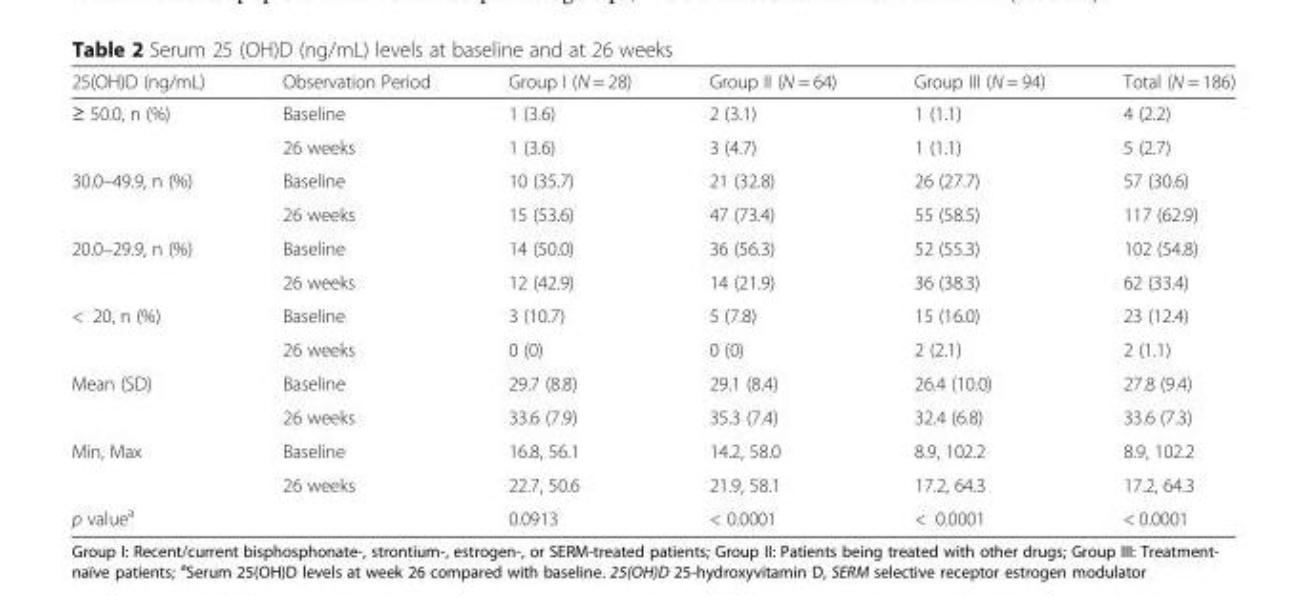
<table><thead><tr><td>25(OH)D (ng/mL)</td><td>Observation Period</td><td>Group I (N = 28)</td><td>Group II (N = 64)</td><td>Group III (N = 94)</td><td>Total (N = 186)</td></tr></thead><tbody><tr><td rowspan="2">≥ 50.0, n (%)</td><td>Baseline</td><td>1 (3.6)</td><td>2 (3.1)</td><td>1 (1.1)</td><td>4 (2.2)</td></tr><tr><td>26 weeks</td><td>1 (3.6)</td><td>3 (4.7)</td><td>1 (1.1)</td><td>5 (2.7)</td></tr><tr><td rowspan="2">30.0–49.9, n (%)</td><td>Baseline</td><td>10 (35.7)</td><td>21 (32.8)</td><td>26 (27.7)</td><td>57 (30.6)</td></tr><tr><td>26 weeks</td><td>15 (53.6)</td><td>47 (73.4)</td><td>55 (58.5)</td><td>117 (62.9)</td></tr><tr><td rowspan="2">20.0–29.9, n (%)</td><td>Baseline</td><td>14 (50.0)</td><td>36 (56.3)</td><td>52 (55.3)</td><td>102 (54.8)</td></tr><tr><td>26 weeks</td><td>12 (42.9)</td><td>14 (21.9)</td><td>36 (38.3)</td><td>62 (33.4)</td></tr><tr><td rowspan="2">&lt; 20, n (%)</td><td>Baseline</td><td>3 (10.7)</td><td>5 (7.8)</td><td>15 (16.0)</td><td>23 (12.4)</td></tr><tr><td>26 weeks</td><td>0 (0)</td><td>0 (0)</td><td>2 (2.1)</td><td>2 (1.1)</td></tr><tr><td rowspan="2">Mean (SD)</td><td>Baseline</td><td>29.7 (8.8)</td><td>29.1 (8.4)</td><td>26.4 (10.0)</td><td>27.8 (9.4)</td></tr><tr><td>26 weeks</td><td>33.6 (7.9)</td><td>35.3 (7.4)</td><td>32.4 (6.8)</td><td>33.6 (7.3)</td></tr><tr><td rowspan="2">Min, Max</td><td>Baseline</td><td>16.8, 56.1</td><td>14.2, 58.0</td><td>8.9, 102.2</td><td>8.9, 102.2</td></tr><tr><td>26 weeks</td><td>22.7, 50.6</td><td>21.9, 58.1</td><td>17.2, 64.3</td><td>17.2, 64.3</td></tr><tr><td>p value<sup>a</sup></td><td></td><td>0.0913</td><td>&lt; 0.0001</td><td>&lt; 0.0001</td><td>&lt; 0.0001</td></tr></tbody></table>